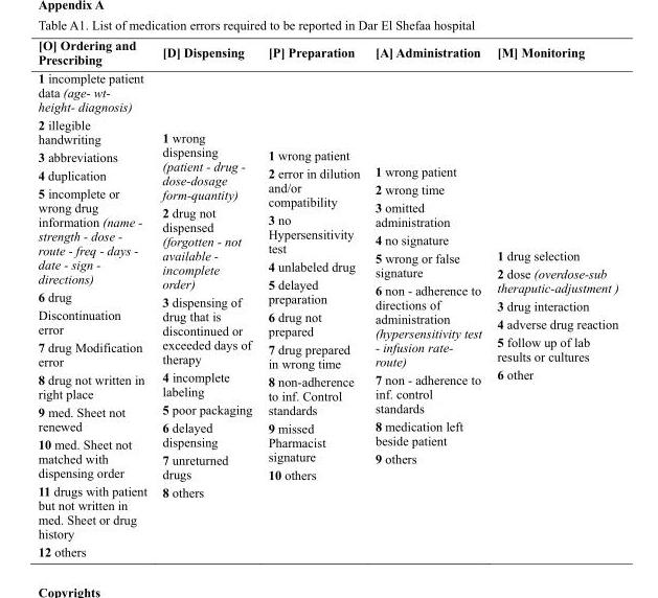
<table><thead><tr><td>[O] Ordering and Prescribing</td><td>[D] Dispensing</td><td>[P] Preparation</td><td>[A] Administration</td><td>[M] Monitoring</td></tr></thead><tbody><tr><td>1 incomplete patient data (age- wt- height- diagnosis) 2 illegible handwriting 3 abbreviations 4 duplication 5 incomplete or wrong drug information (name - strength - dose - route - freq - days - date - sign - directions) 6 drug Discontinuation error 7 drug Modification error 8 drug not written in right place 9 med. Sheet not renewed 10 med. Sheet not matched with dispensing order 11 drugs with patient but not written in med. Sheet or drug history 12 others</td><td>1 wrong dispensing (patient - drug - dose-dosage form-quantity) 2 drug not dispensed (forgotten - not available - incomplete order) 3 dispensing of drug that is discontinued or exceeded days of therapy 4 incomplete labeling 5 poor packaging 6 delayed dispensing 7 unreturned drugs 8 others</td><td>1 wrong patient 2 error in dilution and/or compatibility 3 no Hypersensitivity test 4 unlabeled drug 5 delayed preparation 6 drug not prepared 7 drug prepared in wrong time 8 non-adherence to inf. Control standards 9 missed Pharmacist signature 10 others</td><td>1 wrong patient 2 wrong time 3 omitted administration 4 no signature 5 wrong or false signature 6 non - adherence to directions of administration (hypersensitivity test - infusion rate- route) 7 non - adherence to inf. control standards 8 medication left beside patient 9 others</td><td>1 drug selection 2 dose (overdose-sub theraputic-adjustment ) 3 drug interaction 4 adverse drug reaction 5 follow up of lab results or cultures 6 other</td></tr></tbody></table>